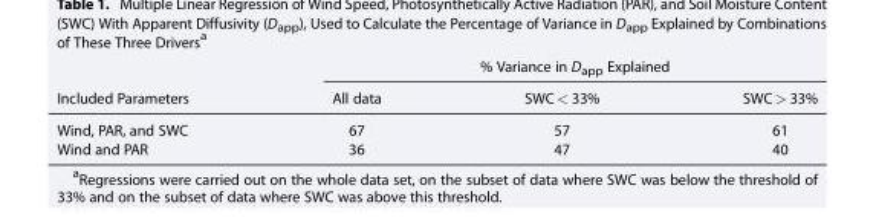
<table><thead><tr><td rowspan="2">Included Parameters</td><td colspan="3">% Variance in D<sub>app</sub> Explained</td></tr><tr><td>All data</td><td>SWC &lt; 33%</td><td>SWC &gt; 33%</td></tr></thead><tbody><tr><td>Wind, PAR, and SWC</td><td>67</td><td>57</td><td>61</td></tr><tr><td>Wind and PAR</td><td>36</td><td>47</td><td>40</td></tr></tbody></table>